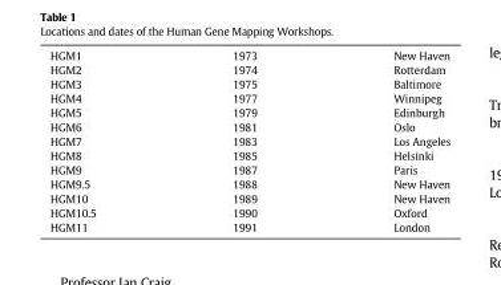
<table><tbody><tr><td>HGM1</td><td>1973</td><td>New Haven</td></tr><tr><td>HGM2</td><td>1974</td><td>Rotterdam</td></tr><tr><td>HGM3</td><td>1975</td><td>Baltimore</td></tr><tr><td>HGM4</td><td>1977</td><td>Winnipeg</td></tr><tr><td>HGM5</td><td>1979</td><td>Edinburgh</td></tr><tr><td>HGM6</td><td>1981</td><td>Oslo</td></tr><tr><td>HGM7</td><td>1983</td><td>Los Angeles</td></tr><tr><td>HGM8</td><td>1985</td><td>Helsinki</td></tr><tr><td>HGM9</td><td>1987</td><td>Paris</td></tr><tr><td>HGM9.5</td><td>1988</td><td>New Haven</td></tr><tr><td>HGM10</td><td>1989</td><td>New Haven</td></tr><tr><td>HGM10.5</td><td>1990</td><td>Oxford</td></tr><tr><td>HGM11</td><td>1991</td><td>London</td></tr></tbody></table>